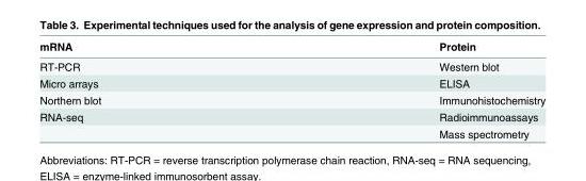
<table><thead><tr><td>mRNA</td><td>Protein</td></tr></thead><tbody><tr><td>RT-PCR</td><td>Western blot</td></tr><tr><td>Micro arrays</td><td>ELISA</td></tr><tr><td>Northern blot</td><td>Immunohistochemistry</td></tr><tr><td rowspan="2">RNA-seq</td><td>Radioimmunoassays</td></tr><tr><td>Mass spectrometry</td></tr></tbody></table>